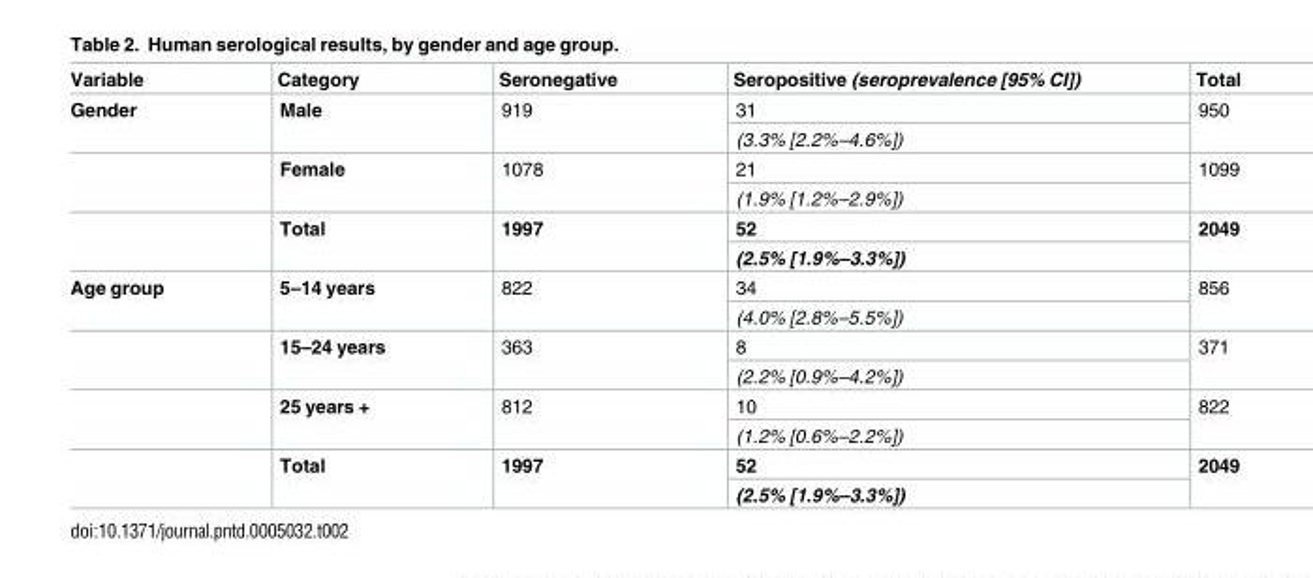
<table><thead><tr><td>Variable</td><td>Category</td><td>Seronegative</td><td>Seropositive (seroprevalence [95% CI])</td><td>Total</td></tr></thead><tbody><tr><td rowspan="6">Gender</td><td rowspan="2">Male</td><td rowspan="2">919</td><td>31</td><td rowspan="2">950</td></tr><tr><td>(3.3% [2.2%–4.6%])</td></tr><tr><td rowspan="2">Female</td><td rowspan="2">1078</td><td>21</td><td rowspan="2">1099</td></tr><tr><td>(1.9% [1.2%–2.9%])</td></tr><tr><td rowspan="2">Total</td><td rowspan="2">1997</td><td>52</td><td rowspan="2">2049</td></tr><tr><td>(2.5% [1.9%–3.3%])</td></tr><tr><td rowspan="8">Age group</td><td rowspan="2">5–14 years</td><td rowspan="2">822</td><td>34</td><td rowspan="2">856</td></tr><tr><td>(4.0% [2.8%–5.5%])</td></tr><tr><td rowspan="2">15–24 years</td><td rowspan="2">363</td><td>8</td><td rowspan="2">371</td></tr><tr><td>(2.2% [0.9%–4.2%])</td></tr><tr><td rowspan="2">25 years +</td><td rowspan="2">812</td><td>10</td><td rowspan="2">822</td></tr><tr><td>(1.2% [0.6%–2.2%])</td></tr><tr><td rowspan="2">Total</td><td rowspan="2">1997</td><td>52</td><td rowspan="2">2049</td></tr><tr><td>(2.5% [1.9%–3.3%])</td></tr></tbody></table>